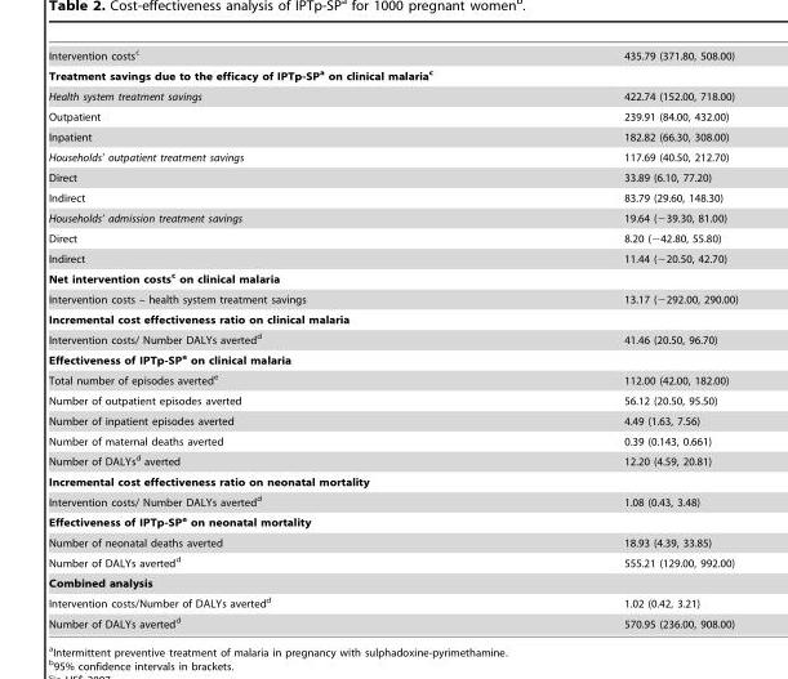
<table><tbody><tr><td>Intervention costs<sup>c</sup></td><td>435.79 (371.80, 508.00)</td></tr><tr><td colspan="2">Treatment savings due to the efficacy of IPTp-SPa on clinical malariac</td></tr><tr><td>Health system treatment savings</td><td>422.74 (152.00, 718.00)</td></tr><tr><td>Outpatient</td><td>239.91 (84.00, 432.00)</td></tr><tr><td>Inpatient</td><td>182.82 (66.30, 308.00)</td></tr><tr><td>Households’ outpatient treatment savings</td><td>117.69 (40.50, 212.70)</td></tr><tr><td>Direct</td><td>33.89 (6.10, 77.20)</td></tr><tr><td>Indirect</td><td>83.79 (29.60, 148.30)</td></tr><tr><td>Households’ admission treatment savings</td><td>19.64 (−39.30, 81.00)</td></tr><tr><td>Direct</td><td>8.20 (−42.80, 55.80)</td></tr><tr><td>Indirect</td><td>11.44 (−20.50, 42.70)</td></tr><tr><td colspan="2">Net intervention costsc on clinical malaria</td></tr><tr><td>Intervention costs – health system treatment savings</td><td>13.17 (−292.00, 290.00)</td></tr><tr><td colspan="2">Incremental cost effectiveness ratio on clinical malaria</td></tr><tr><td>Intervention costs/ Number DALYs averted<sup>d</sup></td><td>41.46 (20.50, 96.70)</td></tr><tr><td colspan="2">Effectiveness of IPTp-SPa on clinical malaria</td></tr><tr><td>Total number of episodes averted<sup>e</sup></td><td>112.00 (42.00, 182.00)</td></tr><tr><td>Number of outpatient episodes averted</td><td>56.12 (20.50, 95.50)</td></tr><tr><td>Number of inpatient episodes averted</td><td>4.49 (1.63, 7.56)</td></tr><tr><td>Number of maternal deaths averted</td><td>0.39 (0.143, 0.661)</td></tr><tr><td>Number of DALYs<sup>d</sup> averted</td><td>12.20 (4.59, 20.81)</td></tr><tr><td colspan="2">Incremental cost effectiveness ratio on neonatal mortality</td></tr><tr><td>Intervention costs/ Number DALYs averted<sup>d</sup></td><td>1.08 (0.43, 3.48)</td></tr><tr><td colspan="2">Effectiveness of IPTp-SPa on neonatal mortality</td></tr><tr><td>Number of neonatal deaths averted</td><td>18.93 (4.39, 33.85)</td></tr><tr><td>Number of DALYs averted<sup>d</sup></td><td>555.21 (129.00, 992.00)</td></tr><tr><td colspan="2">Combined analysis</td></tr><tr><td>Intervention costs/Number of DALYs averted<sup>d</sup></td><td>1.02 (0.42, 3.21)</td></tr><tr><td>Number of DALYs averted<sup>d</sup></td><td>570.95 (236.00, 908.00)</td></tr></tbody></table>